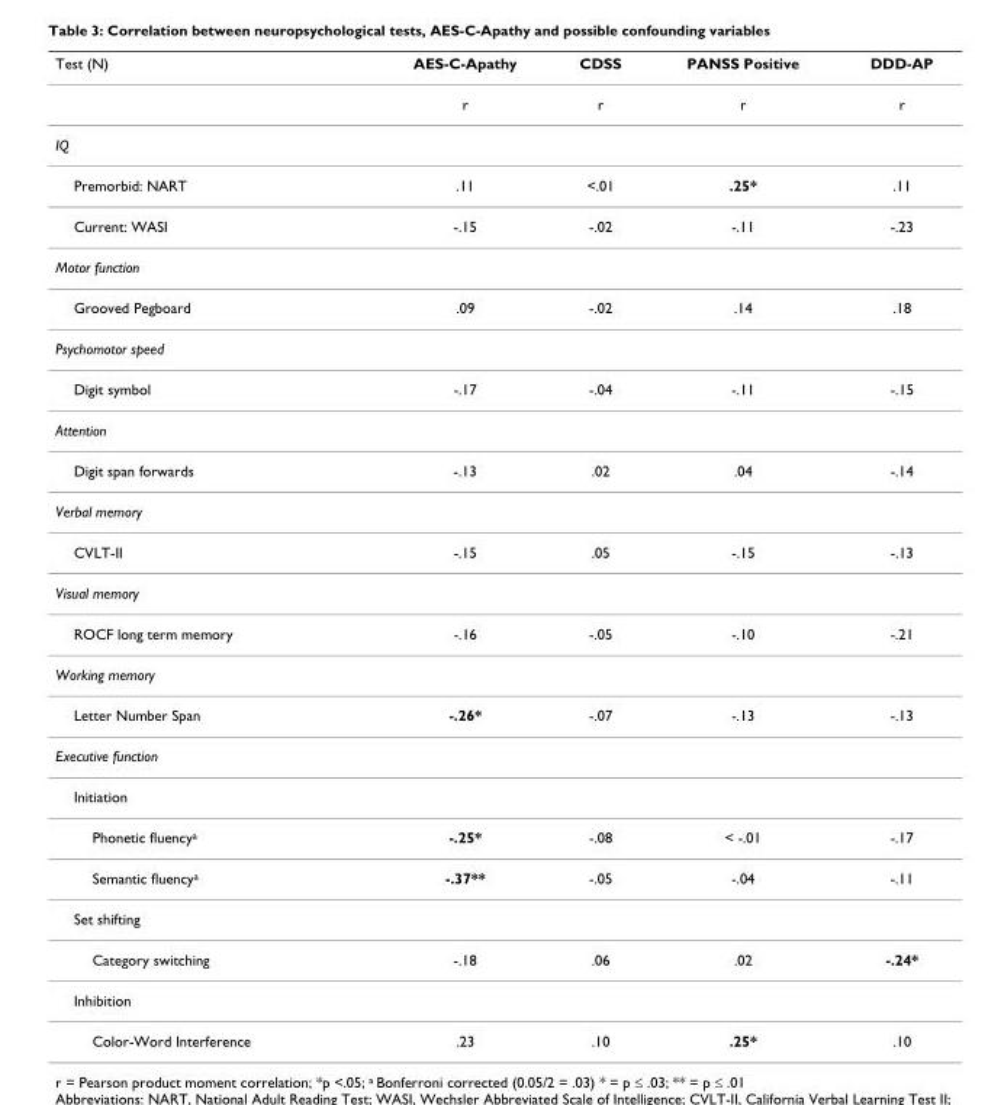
<table><thead><tr><td>Test (N)</td><td>AES-C-Apathy</td><td>CDSS</td><td>PANSS Positive</td><td>DDD-AP</td></tr></thead><tbody><tr><td></td><td>r</td><td>r</td><td>r</td><td>r</td></tr><tr><td colspan="5">IQ</td></tr><tr><td>Premorbid: NART</td><td>.11</td><td>&lt;.01</td><td>.25*</td><td>.11</td></tr><tr><td>Current: WASI</td><td>-.15</td><td>-.02</td><td>-.11</td><td>-.23</td></tr><tr><td colspan="5">Motor function</td></tr><tr><td>Grooved Pegboard</td><td>.09</td><td>-.02</td><td>.14</td><td>.18</td></tr><tr><td colspan="5">Psychomotor speed</td></tr><tr><td>Digit symbol</td><td>-.17</td><td>-.04</td><td>-.11</td><td>-.15</td></tr><tr><td colspan="5">Attention</td></tr><tr><td>Digit span forwards</td><td>-.13</td><td>.02</td><td>.04</td><td>-.14</td></tr><tr><td colspan="5">Verbal memory</td></tr><tr><td>CVLT-II</td><td>-.15</td><td>.05</td><td>-.15</td><td>-.13</td></tr><tr><td colspan="5">Visual memory</td></tr><tr><td>ROCF long term memory</td><td>-.16</td><td>-.05</td><td>-.10</td><td>-.21</td></tr><tr><td colspan="5">Working memory</td></tr><tr><td>Letter Number Span</td><td>-.26*</td><td>-.07</td><td>-.13</td><td>-.13</td></tr><tr><td colspan="5">Executive function</td></tr><tr><td colspan="5">Initiation</td></tr><tr><td>Phonetic fluency<sup>a</sup></td><td>-.25*</td><td>-.08</td><td>&lt; -.01</td><td>-.17</td></tr><tr><td>Semantic fluency<sup>a</sup></td><td>-.37**</td><td>-.05</td><td>-.04</td><td>-.11</td></tr><tr><td colspan="5">Set shifting</td></tr><tr><td>Category switching</td><td>-.18</td><td>.06</td><td>.02</td><td>-.24*</td></tr><tr><td colspan="5">Inhibition</td></tr><tr><td>Color-Word Interference</td><td>.23</td><td>.10</td><td>.25*</td><td>.10</td></tr></tbody></table>